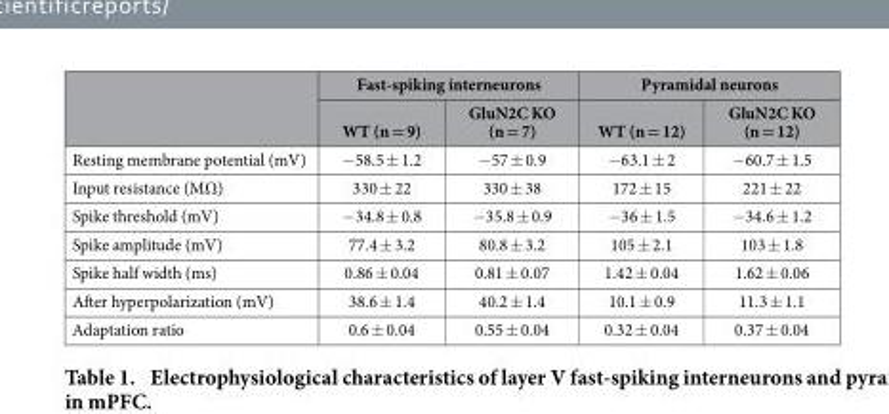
<table><thead><tr><td rowspan="2"></td><td colspan="2">Fast-spiking interneurons</td><td colspan="2">Pyramidal neurons</td></tr><tr><td>WT (n = 9)</td><td>GluN2C KO (n = 7)</td><td>WT (n = 12)</td><td>GluN2C KO (n = 12)</td></tr></thead><tbody><tr><td>Resting membrane potential (mV)</td><td>− 58.5 ± 1.2</td><td>− 57 ± 0.9</td><td>− 63.1 ± 2</td><td>− 60.7 ± 1.5</td></tr><tr><td>Input resistance (MΩ)</td><td>330 ± 22</td><td>330 ± 38</td><td>172 ± 15</td><td>221 ± 22</td></tr><tr><td>Spike threshold (mV)</td><td>− 34.8 ± 0.8</td><td>− 35.8 ± 0.9</td><td>− 36 ± 1.5</td><td>− 34.6 ± 1.2</td></tr><tr><td>Spike amplitude (mV)</td><td>77.4 ± 3.2</td><td>80.8 ± 3.2</td><td>105 ± 2.1</td><td>103 ± 1.8</td></tr><tr><td>Spike half width (ms)</td><td>0.86 ± 0.04</td><td>0.81 ± 0.07</td><td>1.42 ± 0.04</td><td>1.62 ± 0.06</td></tr><tr><td>After hyperpolarization (mV)</td><td>38.6 ± 1.4</td><td>40.2 ± 1.4</td><td>10.1 ± 0.9</td><td>11.3 ± 1.1</td></tr><tr><td>Adaptation ratio</td><td>0.6 ± 0.04</td><td>0.55 ± 0.04</td><td>0.32 ± 0.04</td><td>0.37 ± 0.04</td></tr></tbody></table>